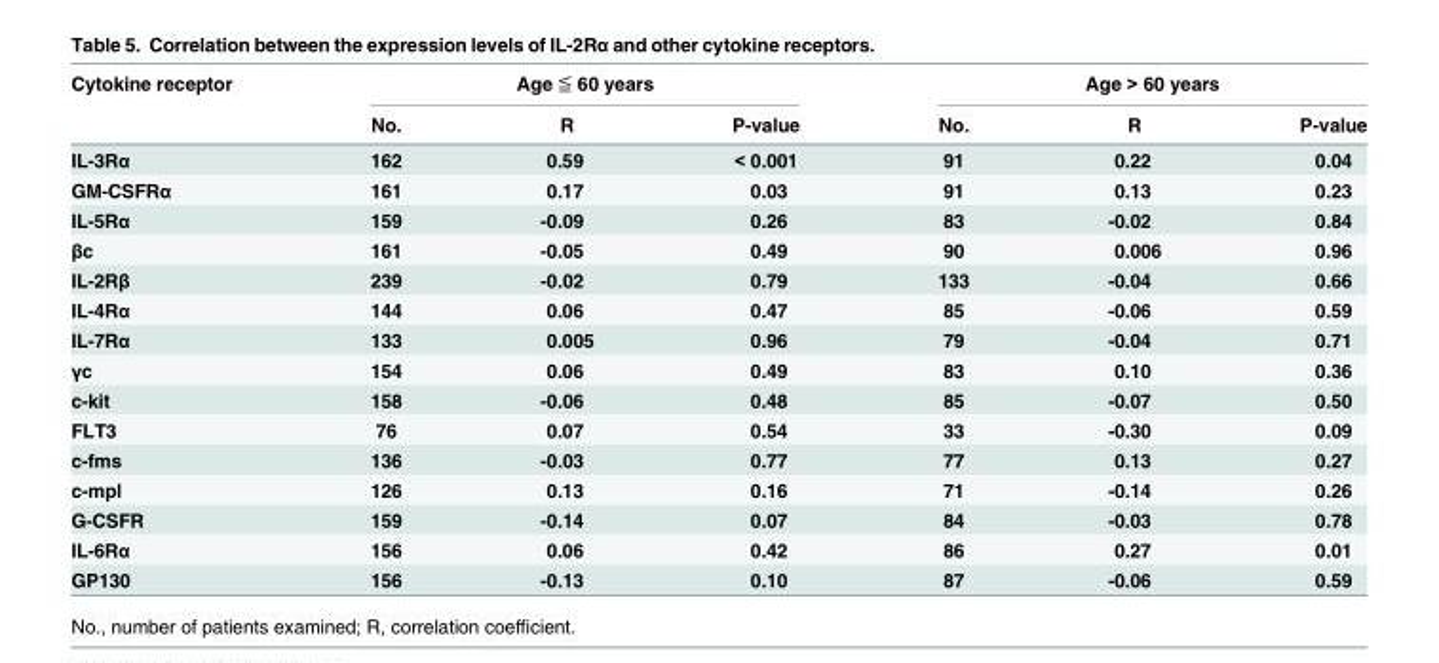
<table><thead><tr><td rowspan="2">Cytokine receptor</td><td colspan="3">Age ≦ 60 years</td><td colspan="3">Age &gt; 60 years</td></tr><tr><td>No.</td><td>R</td><td>P-value</td><td>No.</td><td>R</td><td>P-value</td></tr></thead><tbody><tr><td>IL-3Rα</td><td>162</td><td>0.59</td><td>&lt; 0.001</td><td>91</td><td>0.22</td><td>0.04</td></tr><tr><td>GM-CSFRα</td><td>161</td><td>0.17</td><td>0.03</td><td>91</td><td>0.13</td><td>0.23</td></tr><tr><td>IL-5Rα</td><td>159</td><td>-0.09</td><td>0.26</td><td>83</td><td>-0.02</td><td>0.84</td></tr><tr><td>βc</td><td>161</td><td>-0.05</td><td>0.49</td><td>90</td><td>0.006</td><td>0.96</td></tr><tr><td>IL-2Rβ</td><td>239</td><td>-0.02</td><td>0.79</td><td>133</td><td>-0.04</td><td>0.66</td></tr><tr><td>IL-4Rα</td><td>144</td><td>0.06</td><td>0.47</td><td>85</td><td>-0.06</td><td>0.59</td></tr><tr><td>IL-7Rα</td><td>133</td><td>0.005</td><td>0.96</td><td>79</td><td>-0.04</td><td>0.71</td></tr><tr><td>γc</td><td>154</td><td>0.06</td><td>0.49</td><td>83</td><td>0.10</td><td>0.36</td></tr><tr><td>c-kit</td><td>158</td><td>-0.06</td><td>0.48</td><td>85</td><td>-0.07</td><td>0.50</td></tr><tr><td>FLT3</td><td>76</td><td>0.07</td><td>0.54</td><td>33</td><td>-0.30</td><td>0.09</td></tr><tr><td>c-fms</td><td>136</td><td>-0.03</td><td>0.77</td><td>77</td><td>0.13</td><td>0.27</td></tr><tr><td>c-mpl</td><td>126</td><td>0.13</td><td>0.16</td><td>71</td><td>-0.14</td><td>0.26</td></tr><tr><td>G-CSFR</td><td>159</td><td>-0.14</td><td>0.07</td><td>84</td><td>-0.03</td><td>0.78</td></tr><tr><td>IL-6Rα</td><td>156</td><td>0.06</td><td>0.42</td><td>86</td><td>0.27</td><td>0.01</td></tr><tr><td>GP130</td><td>156</td><td>-0.13</td><td>0.10</td><td>87</td><td>-0.06</td><td>0.59</td></tr></tbody></table>